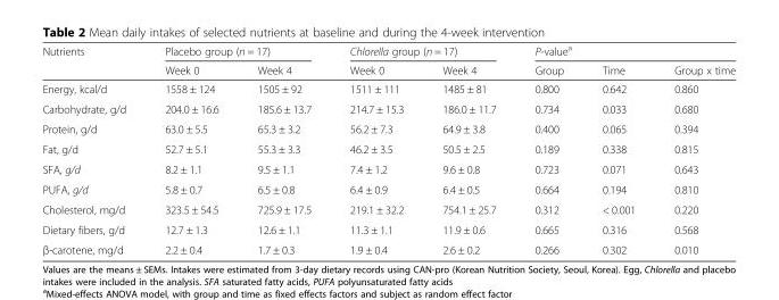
<table><thead><tr><td rowspan="2">Nutrients</td><td colspan="2">Placebo group (n = 17)</td><td colspan="2">Chlorella group (n = 17)</td><td colspan="3">P-value<sup>a</sup></td></tr><tr><td>Week 0</td><td>Week 4</td><td>Week 0</td><td>Week 4</td><td>Group</td><td>Time</td><td>Group x time</td></tr></thead><tbody><tr><td>Energy, kcal/d</td><td>1558 ± 124</td><td>1505 ± 92</td><td>1511 ± 111</td><td>1485 ± 81</td><td>0.800</td><td>0.642</td><td>0.860</td></tr><tr><td>Carbohydrate, g/d</td><td>204.0 ± 16.6</td><td>185.6 ± 13.7</td><td>214.7 ± 15.3</td><td>186.0 ± 11.7</td><td>0.734</td><td>0.033</td><td>0.680</td></tr><tr><td>Protein, g/d</td><td>63.0 ± 5.5</td><td>65.3 ± 3.2</td><td>56.2 ± 7.3</td><td>64.9 ± 3.8</td><td>0.400</td><td>0.065</td><td>0.394</td></tr><tr><td>Fat, g/d</td><td>52.7 ± 5.1</td><td>55.3 ± 3.3</td><td>46.2 ± 3.5</td><td>50.5 ± 2.5</td><td>0.189</td><td>0.338</td><td>0.815</td></tr><tr><td>SFA, g/d</td><td>8.2 ± 1.1</td><td>9.5 ± 1.1</td><td>7.4 ± 1.2</td><td>9.6 ± 0.8</td><td>0.723</td><td>0.071</td><td>0.643</td></tr><tr><td>PUFA, g/d</td><td>5.8 ± 0.7</td><td>6.5 ± 0.8</td><td>6.4 ± 0.9</td><td>6.4 ± 0.5</td><td>0.664</td><td>0.194</td><td>0.810</td></tr><tr><td>Cholesterol, mg/d</td><td>323.5 ± 54.5</td><td>725.9 ± 17.5</td><td>219.1 ± 32.2</td><td>754.1 ± 25.7</td><td>0.312</td><td>&lt; 0.001</td><td>0.220</td></tr><tr><td>Dietary fibers, g/d</td><td>12.7 ± 1.3</td><td>12.6 ± 1.1</td><td>11.3 ± 1.1</td><td>11.9 ± 0.6</td><td>0.665</td><td>0.316</td><td>0.568</td></tr><tr><td>β-carotene, mg/d</td><td>2.2 ± 0.4</td><td>1.7 ± 0.3</td><td>1.9 ± 0.4</td><td>2.6 ± 0.2</td><td>0.266</td><td>0.302</td><td>0.010</td></tr></tbody></table>